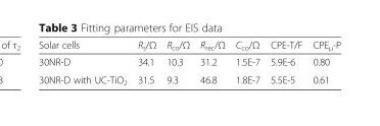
<table><thead><tr><td>Solar cells</td><td>R<sub>s</sub>/Ω</td><td>R<sub>co</sub>/Ω</td><td>R<sub>rec</sub>/Ω</td><td>C<sub>co</sub>/Ω</td><td>CPE-T/F</td><td>CPE<sub>μ</sub>-P</td></tr></thead><tbody><tr><td>30NR-D</td><td>34.1</td><td>10.3</td><td>31.2</td><td>1.5E-7</td><td>5.9E-6</td><td>0.80</td></tr><tr><td>30NR-D with UC-TiO<sub>2</sub></td><td>31.5</td><td>9.3</td><td>46.8</td><td>1.8E-7</td><td>5.5E-5</td><td>0.61</td></tr></tbody></table>